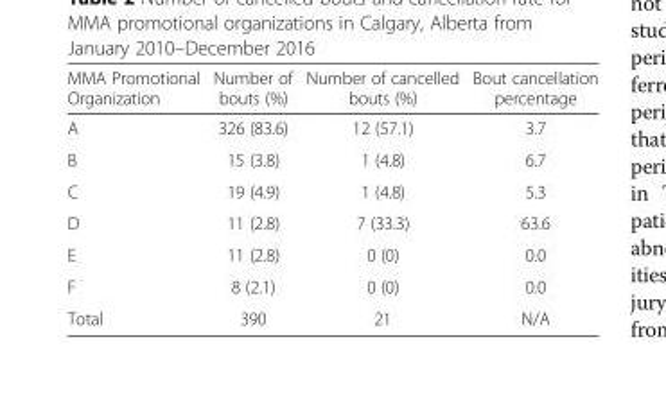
<table><thead><tr><td>MMA Promotional Organization</td><td>Number of bouts (%)</td><td>Number of cancelled bouts (%)</td><td>Bout cancellation percentage</td></tr></thead><tbody><tr><td>A</td><td>326 (83.6)</td><td>12 (57.1)</td><td>3.7</td></tr><tr><td>B</td><td>15 (3.8)</td><td>1 (4.8)</td><td>6.7</td></tr><tr><td>C</td><td>19 (4.9)</td><td>1 (4.8)</td><td>5.3</td></tr><tr><td>D</td><td>11 (2.8)</td><td>7 (33.3)</td><td>63.6</td></tr><tr><td>E</td><td>11 (2.8)</td><td>0 (0)</td><td>0.0</td></tr><tr><td>F</td><td>8 (2.1)</td><td>0 (0)</td><td>0.0</td></tr><tr><td>Total</td><td>390</td><td>21</td><td>N/A</td></tr></tbody></table>